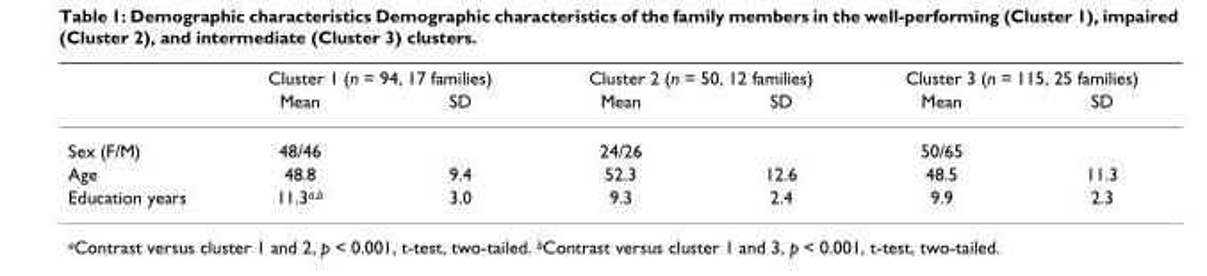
<table><thead><tr><td rowspan="2"></td><td colspan="2">Cluster 1 (n = 94, 17 families)</td><td colspan="2">Cluster 2 (n = 50, 12 families)</td><td colspan="2">Cluster 3 (n = 115, 25 families)</td></tr><tr><td>Mean</td><td>SD</td><td>Mean</td><td>SD</td><td>Mean</td><td>SD</td></tr></thead><tbody><tr><td>Sex (F/M)</td><td>48/46</td><td></td><td>24/26</td><td></td><td>50/65</td><td></td></tr><tr><td>Age</td><td>48.8</td><td>9.4</td><td>52.3</td><td>12.6</td><td>48.5</td><td>11.3</td></tr><tr><td>Education years</td><td>11.3<sup>a,b</sup></td><td>3.0</td><td>9.3</td><td>2.4</td><td>9.9</td><td>2.3</td></tr></tbody></table>